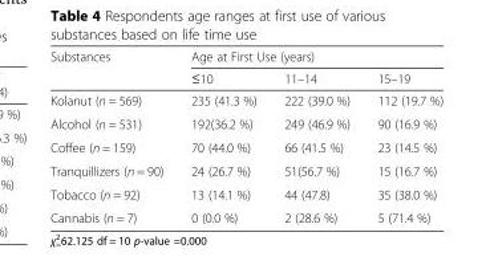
<table><thead><tr><td rowspan="2">Substances</td><td colspan="3">Age at First Use (years)</td></tr><tr><td>≤10</td><td>11–14</td><td>15–19</td></tr></thead><tbody><tr><td>Kolanut (n = 569)</td><td>235 (41.3 %)</td><td>222 (39.0 %)</td><td>112 (19.7 %)</td></tr><tr><td>Alcohol (n = 531)</td><td>192(36.2 %)</td><td>249 (46.9 %)</td><td>90 (16.9 %)</td></tr><tr><td>Coffee (n = 159)</td><td>70 (44.0 %)</td><td>66 (41.5 %)</td><td>23 (14.5 %)</td></tr><tr><td>Tranquillizers (n = 90)</td><td>24 (26.7 %)</td><td>51(56.7 %)</td><td>15 (16.7 %)</td></tr><tr><td>Tobacco (n = 92)</td><td>13 (14.1 %)</td><td>44 (47.8)</td><td>35 (38.0 %)</td></tr><tr><td>Cannabis (n = 7)</td><td>0 (0.0 %)</td><td>2 (28.6 %)</td><td>5 (71.4 %)</td></tr></tbody></table>